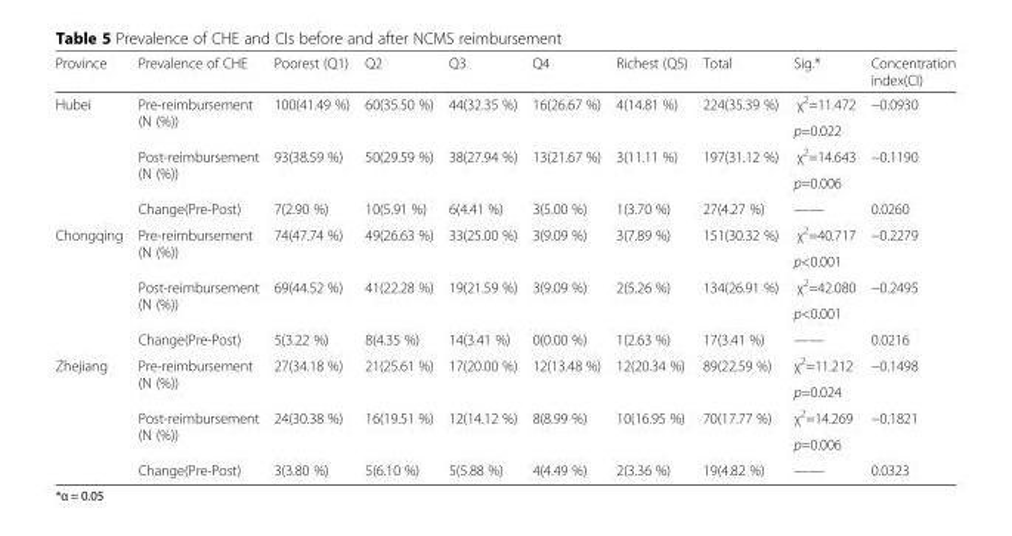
<table><thead><tr><td>Province</td><td>Prevalence of CHE</td><td>Poorest (Q1)</td><td>Q2</td><td>Q3</td><td>Q4</td><td>Richest (Q5)</td><td>Total</td><td>Sig.*</td><td>Concentration index(CI)</td></tr></thead><tbody><tr><td rowspan="5">Hubei</td><td rowspan="2">Pre-reimbursement (N (%))</td><td rowspan="2">100(41.49 %)</td><td rowspan="2">60(35.50 %)</td><td rowspan="2">44(32.35 %)</td><td rowspan="2">16(26.67 %)</td><td rowspan="2">4(14.81 %)</td><td rowspan="2">224(35.39 %)</td><td>χ<sup>2</sup>=11.472</td><td rowspan="2">−0.0930</td></tr><tr><td>p=0.022</td></tr><tr><td rowspan="2">Post-reimbursement (N (%))</td><td rowspan="2">93(38.59 %)</td><td rowspan="2">50(29.59 %)</td><td rowspan="2">38(27.94 %)</td><td rowspan="2">13(21.67 %)</td><td rowspan="2">3(11.11 %)</td><td rowspan="2">197(31.12 %)</td><td>χ<sup>2</sup>=14.643</td><td rowspan="2">−0.1190</td></tr><tr><td>p=0.006</td></tr><tr><td>Change(Pre-Post)</td><td>7(2.90 %)</td><td>10(5.91 %)</td><td>6(4.41 %)</td><td>3(5.00 %)</td><td>1(3.70 %)</td><td>27(4.27 %)</td><td>——</td><td>0.0260</td></tr><tr><td rowspan="5">Chongqing</td><td rowspan="2">Pre-reimbursement (N (%))</td><td rowspan="2">74(47.74 %)</td><td rowspan="2">49(26.63 %)</td><td rowspan="2">33(25.00 %)</td><td rowspan="2">3(9.09 %)</td><td rowspan="2">3(7.89 %)</td><td rowspan="2">151(30.32 %)</td><td>χ<sup>2</sup>=40.717</td><td rowspan="2">−0.2279</td></tr><tr><td>p&lt;0.001</td></tr><tr><td rowspan="2">Post-reimbursement (N (%))</td><td rowspan="2">69(44.52 %)</td><td rowspan="2">41(22.28 %)</td><td rowspan="2">19(21.59 %)</td><td rowspan="2">3(9.09 %)</td><td rowspan="2">2(5.26 %)</td><td rowspan="2">134(26.91 %)</td><td>χ<sup>2</sup>=42.080</td><td rowspan="2">−0.2495</td></tr><tr><td>p&lt;0.001</td></tr><tr><td>Change(Pre-Post)</td><td>5(3.22 %)</td><td>8(4.35 %)</td><td>14(3.41 %)</td><td>0(0.00 %)</td><td>1(2.63 %)</td><td>17(3.41 %)</td><td>——</td><td>0.0216</td></tr><tr><td rowspan="5">Zhejiang</td><td rowspan="2">Pre-reimbursement (N (%))</td><td rowspan="2">27(34.18 %)</td><td rowspan="2">21(25.61 %)</td><td rowspan="2">17(20.00 %)</td><td rowspan="2">12(13.48 %)</td><td rowspan="2">12(20.34 %)</td><td rowspan="2">89(22.59 %)</td><td>χ<sup>2</sup>=11.212</td><td rowspan="2">−0.1498</td></tr><tr><td>p=0.024</td></tr><tr><td rowspan="2">Post-reimbursement (N (%))</td><td rowspan="2">24(30.38 %)</td><td rowspan="2">16(19.51 %)</td><td rowspan="2">12(14.12 %)</td><td rowspan="2">8(8.99 %)</td><td rowspan="2">10(16.95 %)</td><td rowspan="2">70(17.77 %)</td><td>χ<sup>2</sup>=14.269</td><td rowspan="2">−0.1821</td></tr><tr><td>p=0.006</td></tr><tr><td>Change(Pre-Post)</td><td>3(3.80 %)</td><td>5(6.10 %)</td><td>5(5.88 %)</td><td>4(4.49 %)</td><td>2(3.36 %)</td><td>19(4.82 %)</td><td>——</td><td>0.0323</td></tr></tbody></table>